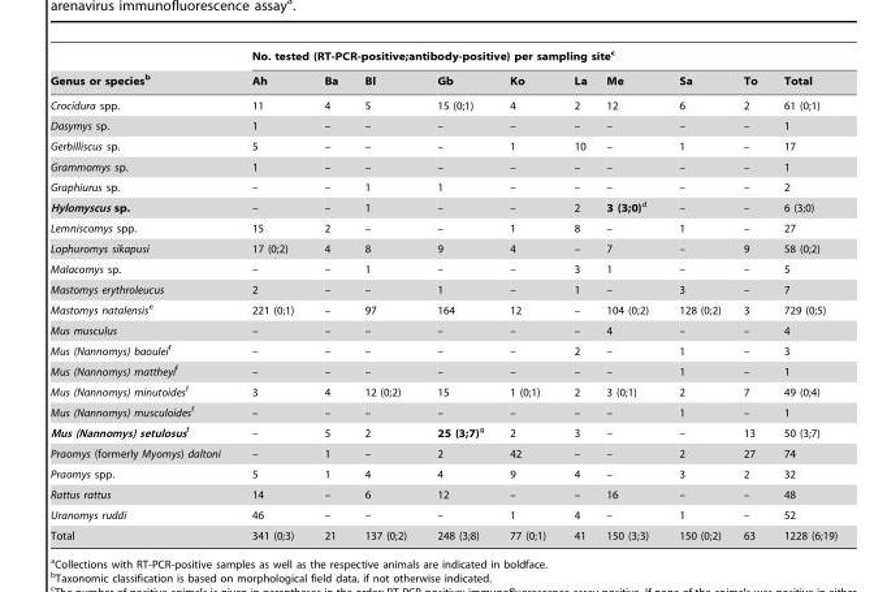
<table><thead><tr><td rowspan="2">Genus or species<sup>b</sup></td><td colspan="10">No. tested (RT-PCR-positive;antibody-positive) per sampling site<sup>c</sup></td></tr><tr><td>Ah</td><td>Ba</td><td>Bl</td><td>Gb</td><td>Ko</td><td>La</td><td>Me</td><td>Sa</td><td>To</td><td>Total</td></tr></thead><tbody><tr><td>Crocidura spp.</td><td>11</td><td>4</td><td>5</td><td>15 (0;1)</td><td>4</td><td>2</td><td>12</td><td>6</td><td>2</td><td>61 (0;1)</td></tr><tr><td>Dasymys sp.</td><td>1</td><td>–</td><td>–</td><td>–</td><td>–</td><td>–</td><td>–</td><td>–</td><td>–</td><td>1</td></tr><tr><td>Gerbilliscus sp.</td><td>5</td><td>–</td><td>–</td><td>–</td><td>1</td><td>10</td><td>–</td><td>1</td><td>–</td><td>17</td></tr><tr><td>Grammomys sp.</td><td>1</td><td>–</td><td>–</td><td>–</td><td>–</td><td>–</td><td>–</td><td>–</td><td>–</td><td>1</td></tr><tr><td>Graphiurus sp.</td><td>–</td><td>–</td><td>1</td><td>1</td><td>–</td><td>–</td><td>–</td><td>–</td><td>–</td><td>2</td></tr><tr><td>Hylomyscus sp.</td><td>–</td><td>–</td><td>1</td><td>–</td><td>–</td><td>2</td><td>3 (3;0)d</td><td>–</td><td>–</td><td>6 (3;0)</td></tr><tr><td>Lemniscomys spp.</td><td>15</td><td>2</td><td>–</td><td>–</td><td>1</td><td>8</td><td>–</td><td>1</td><td>–</td><td>27</td></tr><tr><td>Lophuromys sikapusi</td><td>17 (0;2)</td><td>4</td><td>8</td><td>9</td><td>4</td><td>–</td><td>7</td><td>–</td><td>9</td><td>58 (0;2)</td></tr><tr><td>Malacomys sp.</td><td>–</td><td>–</td><td>1</td><td>–</td><td>–</td><td>3</td><td>1</td><td>–</td><td>–</td><td>5</td></tr><tr><td>Mastomys erythroleucus</td><td>2</td><td>–</td><td>–</td><td>1</td><td>–</td><td>1</td><td>–</td><td>3</td><td>–</td><td>7</td></tr><tr><td>Mastomys natalensise</td><td>221 (0;1)</td><td>–</td><td>97</td><td>164</td><td>12</td><td>–</td><td>104 (0;2)</td><td>128 (0;2)</td><td>3</td><td>729 (0;5)</td></tr><tr><td>Mus musculus</td><td>–</td><td>–</td><td>–</td><td>–</td><td>–</td><td>–</td><td>4</td><td>–</td><td>–</td><td>4</td></tr><tr><td>Mus (Nannomys) baouleif</td><td>–</td><td>–</td><td>–</td><td>–</td><td>–</td><td>2</td><td>–</td><td>1</td><td>–</td><td>3</td></tr><tr><td>Mus (Nannomys) mattheyif</td><td>–</td><td>–</td><td>–</td><td>–</td><td>–</td><td>–</td><td>–</td><td>1</td><td>–</td><td>1</td></tr><tr><td>Mus (Nannomys) minutoidesf</td><td>3</td><td>4</td><td>12 (0;2)</td><td>15</td><td>1 (0;1)</td><td>2</td><td>3 (0;1)</td><td>2</td><td>7</td><td>49 (0;4)</td></tr><tr><td>Mus (Nannomys) musculoidesf</td><td>–</td><td>–</td><td>–</td><td>–</td><td>–</td><td>–</td><td>–</td><td>1</td><td>–</td><td>1</td></tr><tr><td>Mus (Nannomys) setulosusf</td><td>–</td><td>5</td><td>2</td><td>25 (3;7)g</td><td>2</td><td>3</td><td>–</td><td>–</td><td>13</td><td>50 (3;7)</td></tr><tr><td>Praomys (formerly Myomys) daltoni</td><td>–</td><td>1</td><td>–</td><td>2</td><td>42</td><td>–</td><td>–</td><td>2</td><td>27</td><td>74</td></tr><tr><td>Praomys spp.</td><td>5</td><td>1</td><td>4</td><td>4</td><td>9</td><td>4</td><td>–</td><td>3</td><td>2</td><td>32</td></tr><tr><td>Rattus rattus</td><td>14</td><td>–</td><td>6</td><td>12</td><td>–</td><td>–</td><td>16</td><td>–</td><td>–</td><td>48</td></tr><tr><td>Uranomys ruddi</td><td>46</td><td>–</td><td>–</td><td>–</td><td>1</td><td>4</td><td>–</td><td>1</td><td>–</td><td>52</td></tr><tr><td>Total</td><td>341 (0;3)</td><td>21</td><td>137 (0;2)</td><td>248 (3;8)</td><td>77 (0;1)</td><td>41</td><td>150 (3;3)</td><td>150 (0;2)</td><td>63</td><td>1228 (6;19)</td></tr></tbody></table>